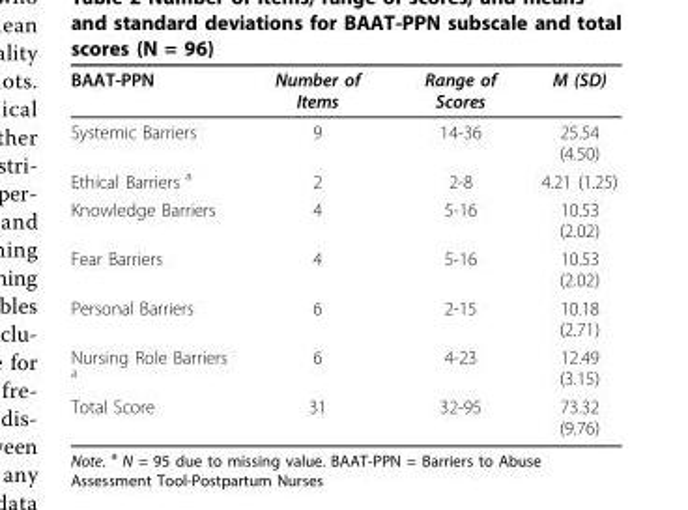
<table><thead><tr><td>BAAT-PPN</td><td>Number of Items</td><td>Range of Scores</td><td>M (SD)</td></tr></thead><tbody><tr><td>Systemic Barriers</td><td>9</td><td>14-36</td><td>25.54 (4.50)</td></tr><tr><td>Ethical Barriers <sup>a</sup></td><td>2</td><td>2-8</td><td>4.21 (1.25)</td></tr><tr><td>Knowledge Barriers</td><td>4</td><td>5-16</td><td>10.53 (2.02)</td></tr><tr><td>Fear Barriers</td><td>4</td><td>5-16</td><td>10.53 (2.02)</td></tr><tr><td>Personal Barriers</td><td>6</td><td>2-15</td><td>10.18 (2.71)</td></tr><tr><td>Nursing Role Barriers <sup>a</sup></td><td>6</td><td>4-23</td><td>12.49 (3.15)</td></tr><tr><td>Total Score</td><td>31</td><td>32-95</td><td>73.32 (9.76)</td></tr></tbody></table>